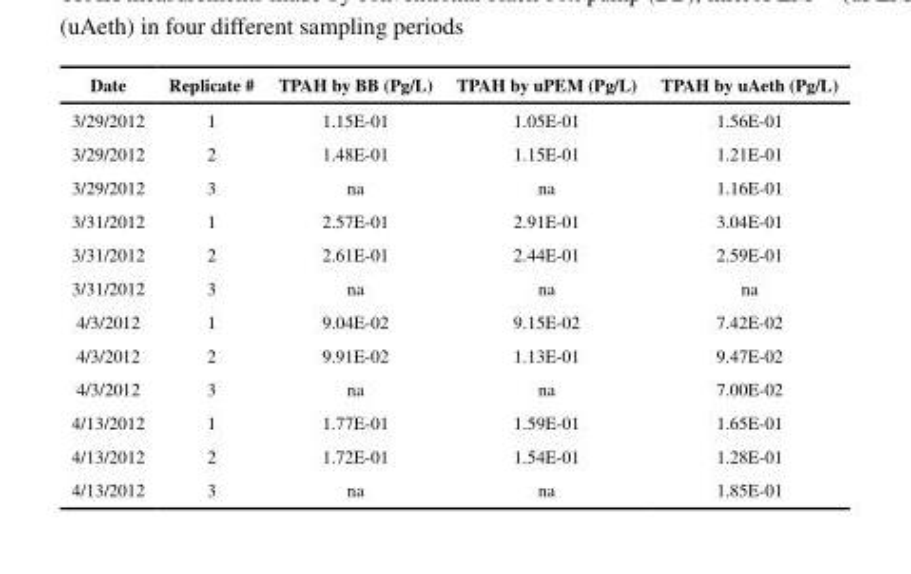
<table><thead><tr><td>Date</td><td>Replicate #</td><td>TPAH by BB (Pg/L)</td><td>TPAH by uPEM (Pg/L)</td><td>TPAH by uAeth (Pg/L)</td></tr></thead><tbody><tr><td>3/29/2012</td><td>1</td><td>1.15E-01</td><td>1.05E-01</td><td>1.56E-01</td></tr><tr><td>3/29/2012</td><td>2</td><td>1.48E-01</td><td>1.15E-01</td><td>1.21E-01</td></tr><tr><td>3/29/2012</td><td>3</td><td>na</td><td>na</td><td>1.16E-01</td></tr><tr><td>3/31/2012</td><td>1</td><td>2.57E-01</td><td>2.91E-01</td><td>3.04E-01</td></tr><tr><td>3/31/2012</td><td>2</td><td>2.61E-01</td><td>2.44E-01</td><td>2.59E-01</td></tr><tr><td>3/31/2012</td><td>3</td><td>na</td><td>na</td><td>na</td></tr><tr><td>4/3/2012</td><td>1</td><td>9.04E-02</td><td>9.15E-02</td><td>7.42E-02</td></tr><tr><td>4/3/2012</td><td>2</td><td>9.91E-02</td><td>1.13E-01</td><td>9.47E-02</td></tr><tr><td>4/3/2012</td><td>3</td><td>na</td><td>na</td><td>7.00E-02</td></tr><tr><td>4/13/2012</td><td>1</td><td>1.77E-01</td><td>1.59E-01</td><td>1.65E-01</td></tr><tr><td>4/13/2012</td><td>2</td><td>1.72E-01</td><td>1.54E-01</td><td>1.28E-01</td></tr><tr><td>4/13/2012</td><td>3</td><td>na</td><td>na</td><td>1.85E-01</td></tr></tbody></table>